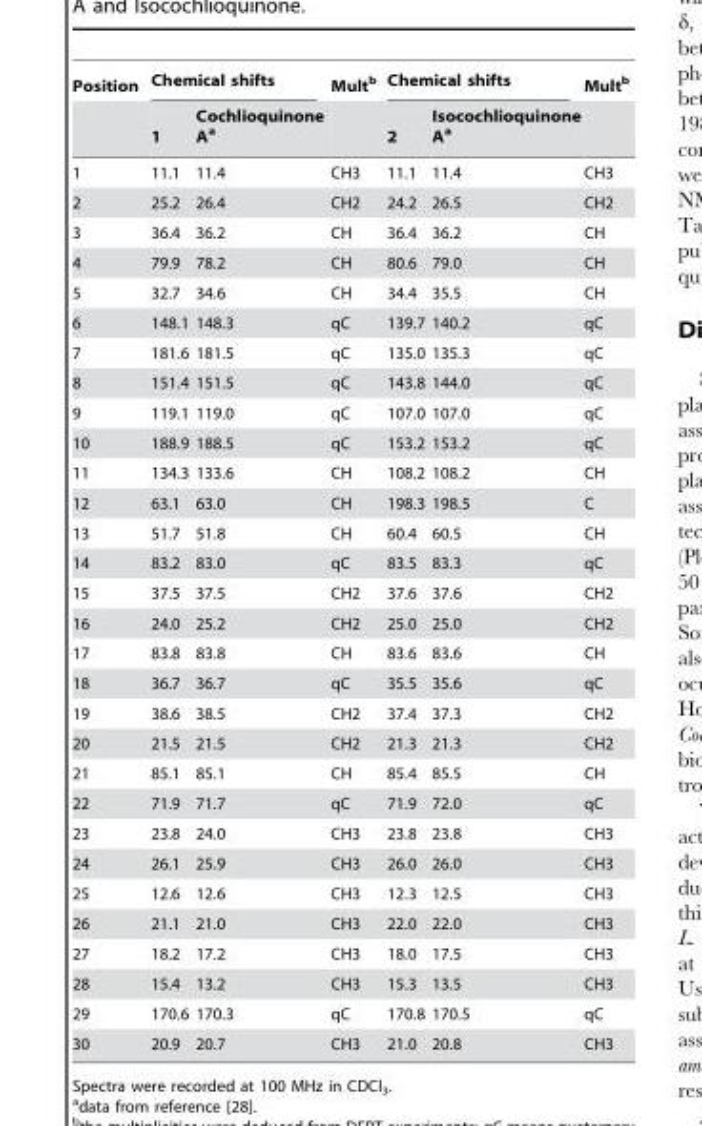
<table><thead><tr><td rowspan="2">Position</td><td colspan="2">Chemical shifts</td><td rowspan="2">Mult<sup>b</sup></td><td colspan="2">Chemical shifts</td><td rowspan="2">Mult<sup>b</sup></td></tr><tr><td>1</td><td>Cochlioquinone A<sup>a</sup></td><td>2</td><td>Isocochlioquinone A<sup>a</sup></td></tr></thead><tbody><tr><td>1</td><td>11.1</td><td>11.4</td><td>CH3</td><td>11.1</td><td>11.4</td><td>CH3</td></tr><tr><td>2</td><td>25.2</td><td>26.4</td><td>CH2</td><td>24.2</td><td>26.5</td><td>CH2</td></tr><tr><td>3</td><td>36.4</td><td>36.2</td><td>CH</td><td>36.4</td><td>36.2</td><td>CH</td></tr><tr><td>4</td><td>79.9</td><td>78.2</td><td>CH</td><td>80.6</td><td>79.0</td><td>CH</td></tr><tr><td>5</td><td>32.7</td><td>34.6</td><td>CH</td><td>34.4</td><td>35.5</td><td>CH</td></tr><tr><td>6</td><td>148.1</td><td>148.3</td><td>qC</td><td>139.7</td><td>140.2</td><td>qC</td></tr><tr><td>7</td><td>181.6</td><td>181.5</td><td>qC</td><td>135.0</td><td>135.3</td><td>qC</td></tr><tr><td>8</td><td>151.4</td><td>151.5</td><td>qC</td><td>143.8</td><td>144.0</td><td>qC</td></tr><tr><td>9</td><td>119.1</td><td>119.0</td><td>qC</td><td>107.0</td><td>107.0</td><td>qC</td></tr><tr><td>10</td><td>188.9</td><td>188.5</td><td>qC</td><td>153.2</td><td>153.2</td><td>qC</td></tr><tr><td>11</td><td>134.3</td><td>133.6</td><td>CH</td><td>108.2</td><td>108.2</td><td>CH</td></tr><tr><td>12</td><td>63.1</td><td>63.0</td><td>CH</td><td>198.3</td><td>198.5</td><td>C</td></tr><tr><td>13</td><td>51.7</td><td>51.8</td><td>CH</td><td>60.4</td><td>60.5</td><td>CH</td></tr><tr><td>14</td><td>83.2</td><td>83.0</td><td>qC</td><td>83.5</td><td>83.3</td><td>qC</td></tr><tr><td>15</td><td>37.5</td><td>37.5</td><td>CH2</td><td>37.6</td><td>37.6</td><td>CH2</td></tr><tr><td>16</td><td>24.0</td><td>25.2</td><td>CH2</td><td>25.0</td><td>25.0</td><td>CH2</td></tr><tr><td>17</td><td>83.8</td><td>83.8</td><td>CH</td><td>83.6</td><td>83.6</td><td>CH</td></tr><tr><td>18</td><td>36.7</td><td>36.7</td><td>qC</td><td>35.5</td><td>35.6</td><td>qC</td></tr><tr><td>19</td><td>38.6</td><td>38.5</td><td>CH2</td><td>37.4</td><td>37.3</td><td>CH2</td></tr><tr><td>20</td><td>21.5</td><td>21.5</td><td>CH2</td><td>21.3</td><td>21.3</td><td>CH2</td></tr><tr><td>21</td><td>85.1</td><td>85.1</td><td>CH</td><td>85.4</td><td>85.5</td><td>CH</td></tr><tr><td>22</td><td>71.9</td><td>71.7</td><td>qC</td><td>71.9</td><td>72.0</td><td>qC</td></tr><tr><td>23</td><td>23.8</td><td>24.0</td><td>CH3</td><td>23.8</td><td>23.8</td><td>CH3</td></tr><tr><td>24</td><td>26.1</td><td>25.9</td><td>CH3</td><td>26.0</td><td>26.0</td><td>CH3</td></tr><tr><td>25</td><td>12.6</td><td>12.6</td><td>CH3</td><td>12.3</td><td>12.5</td><td>CH3</td></tr><tr><td>26</td><td>21.1</td><td>21.0</td><td>CH3</td><td>22.0</td><td>22.0</td><td>CH3</td></tr><tr><td>27</td><td>18.2</td><td>17.2</td><td>CH3</td><td>18.0</td><td>17.5</td><td>CH3</td></tr><tr><td>28</td><td>15.4</td><td>13.2</td><td>CH3</td><td>15.3</td><td>13.5</td><td>CH3</td></tr><tr><td>29</td><td>170.6</td><td>170.3</td><td>qC</td><td>170.8</td><td>170.5</td><td>qC</td></tr><tr><td>30</td><td>20.9</td><td>20.7</td><td>CH3</td><td>21.0</td><td>20.8</td><td>CH3</td></tr></tbody></table>